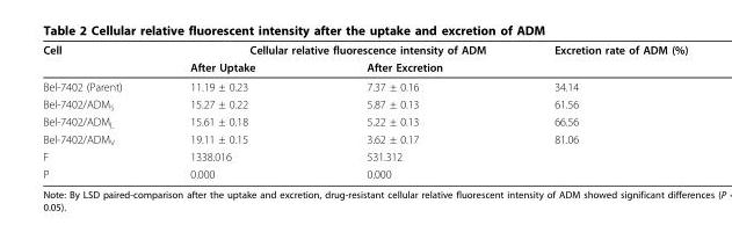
<table><thead><tr><td rowspan="2">Cell</td><td colspan="2">Cellular relative fluorescence intensity of ADM</td><td rowspan="2">Excretion rate of ADM (%)</td></tr><tr><td>After Uptake</td><td>After Excretion</td></tr></thead><tbody><tr><td>Bel-7402 (Parent)</td><td>11.19 ± 0.23</td><td>7.37 ± 0.16</td><td>34.14</td></tr><tr><td>Bel-7402/ADM<sub>S</sub></td><td>15.27 ± 0.22</td><td>5.87 ± 0.13</td><td>61.56</td></tr><tr><td>Bel-7402/ADM<sub>L</sub></td><td>15.61 ± 0.18</td><td>5.22 ± 0.13</td><td>66.56</td></tr><tr><td>Bel-7402/ADM<sub>V</sub></td><td>19.11 ± 0.15</td><td>3.62 ± 0.17</td><td>81.06</td></tr><tr><td>F</td><td>1338.016</td><td>531.312</td><td></td></tr><tr><td>P</td><td>0.000</td><td>0.000</td><td></td></tr></tbody></table>